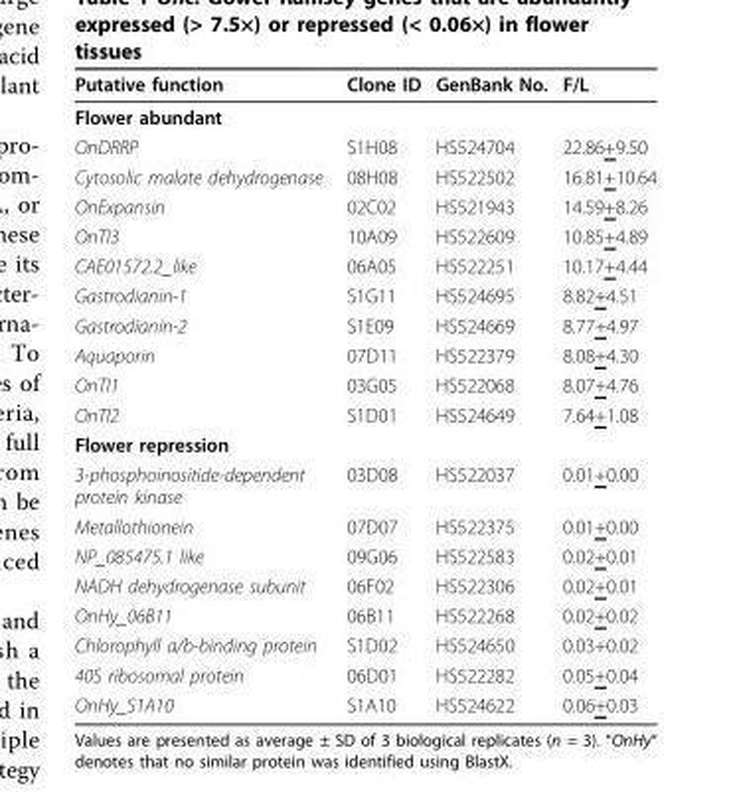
<table><thead><tr><td>Putative function</td><td>Clone ID</td><td>GenBank No.</td><td>F/L</td></tr></thead><tbody><tr><td colspan="4">Flower abundant</td></tr><tr><td>OnDRRP</td><td>S1H08</td><td>HS524704</td><td>22.86+9.50</td></tr><tr><td>Cytosolic malate dehydrogenase</td><td>08H08</td><td>HS522502</td><td>16.81+10.64</td></tr><tr><td>OnExpansin</td><td>02C02</td><td>HS521943</td><td>14.59+8.26</td></tr><tr><td>OnTI3</td><td>10A09</td><td>HS522609</td><td>10.85+4.89</td></tr><tr><td>CAE01572.2_like</td><td>06A05</td><td>HS522251</td><td>10.17+4.44</td></tr><tr><td>Gastrodianin-1</td><td>S1G11</td><td>HS524695</td><td>8.82+4.51</td></tr><tr><td>Gastrodianin-2</td><td>S1E09</td><td>HS524669</td><td>8.77+4.97</td></tr><tr><td>Aquaporin</td><td>07D11</td><td>HS522379</td><td>8.08+4.30</td></tr><tr><td>OnTI1</td><td>03G05</td><td>HS522068</td><td>8.07+4.76</td></tr><tr><td>OnTI2</td><td>S1D01</td><td>HS524649</td><td>7.64+1.08</td></tr><tr><td colspan="4">Flower repression</td></tr><tr><td>3-phosphoinositide-dependent protein kinase</td><td>03D08</td><td>HS522037</td><td>0.01+0.00</td></tr><tr><td>Metallothionein</td><td>07D07</td><td>HS522375</td><td>0.01+0.00</td></tr><tr><td>NP_085475.1 like</td><td>09G06</td><td>HS522583</td><td>0.02+0.01</td></tr><tr><td>NADH dehydrogenase subunit</td><td>06F02</td><td>HS522306</td><td>0.02+0.01</td></tr><tr><td>OnHy_06B11</td><td>06B11</td><td>HS522268</td><td>0.02+0.02</td></tr><tr><td>Chlorophyll a/b-binding protein</td><td>S1D02</td><td>HS524650</td><td>0.03+0.02</td></tr><tr><td>40S ribosomal protein</td><td>06D01</td><td>HS522282</td><td>0.05+0.04</td></tr><tr><td>OnHy_S1A10</td><td>S1A10</td><td>HS524622</td><td>0.06+0.03</td></tr></tbody></table>